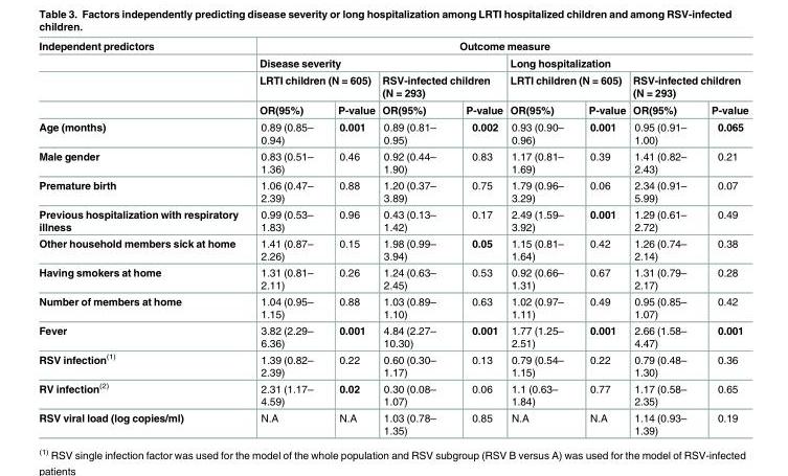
<table><thead><tr><td rowspan="4">Independent predictors</td><td colspan="8">Outcome measure</td></tr><tr><td colspan="4">Disease severity</td><td colspan="4">Long hospitalization</td></tr><tr><td colspan="2">LRTI children (N = 605)</td><td colspan="2">RSV-infected children (N = 293)</td><td colspan="2">LRTI children (N = 605)</td><td colspan="2">RSV-infected children (N = 293)</td></tr><tr><td>OR(95%)</td><td>P-value</td><td>OR(95%)</td><td>P-value</td><td>OR(95%)</td><td>P-value</td><td>OR(95%)</td><td>P-value</td></tr></thead><tbody><tr><td>Age (months)</td><td>0.89 (0.85– 0.94)</td><td>0.001</td><td>0.89 (0.81– 0.95)</td><td>0.002</td><td>0.93 (0.90– 0.96)</td><td>0.001</td><td>0.95 (0.91– 1.00)</td><td>0.065</td></tr><tr><td>Male gender</td><td>0.83 (0.51– 1.36)</td><td>0.46</td><td>0.92 (0.44– 1.90)</td><td>0.83</td><td>1.17 (0.81– 1.69)</td><td>0.39</td><td>1.41 (0.82– 2.43)</td><td>0.21</td></tr><tr><td>Premature birth</td><td>1.06 (0.47– 2.39)</td><td>0.88</td><td>1.20 (0.37– 3.89)</td><td>0.75</td><td>1.79 (0.96– 3.29)</td><td>0.06</td><td>2.34 (0.91– 5.99)</td><td>0.07</td></tr><tr><td>Previous hospitalization with respiratory illness</td><td>0.99 (0.53– 1.83)</td><td>0.96</td><td>0.43 (0.13– 1.42)</td><td>0.17</td><td>2.49 (1.59– 3.92)</td><td>0.001</td><td>1.29 (0.61– 2.72)</td><td>0.49</td></tr><tr><td>Other household members sick at home</td><td>1.41 (0.87– 2.26)</td><td>0.15</td><td>1.98 (0.99– 3.94)</td><td>0.05</td><td>1.15 (0.81– 1.64)</td><td>0.42</td><td>1.26 (0.74– 2.14)</td><td>0.38</td></tr><tr><td>Having smokers at home</td><td>1.31 (0.81– 2.11)</td><td>0.26</td><td>1.24 (0.63– 2.45)</td><td>0.53</td><td>0.92 (0.66– 1.31)</td><td>0.67</td><td>1.31 (0.79– 2.17)</td><td>0.28</td></tr><tr><td>Number of members at home</td><td>1.04 (0.95– 1.15)</td><td>0.88</td><td>1.03 (0.89– 1.10)</td><td>0.63</td><td>1.02 (0.97– 1.11)</td><td>0.49</td><td>0.95 (0.85– 1.07)</td><td>0.42</td></tr><tr><td>Fever</td><td>3.82 (2.29– 6.36)</td><td>0.001</td><td>4.84 (2.27– 10.30)</td><td>0.001</td><td>1.77 (1.25– 2.51)</td><td>0.001</td><td>2.66 (1.58– 4.47)</td><td>0.001</td></tr><tr><td>RSV infection<sup>(1)</sup></td><td>1.39 (0.82– 2.39)</td><td>0.22</td><td>0.60 (0.30– 1.17)</td><td>0.13</td><td>0.79 (0.54– 1.15)</td><td>0.22</td><td>0.79 (0.48– 1.30)</td><td>0.36</td></tr><tr><td>RV infection<sup>(2)</sup></td><td>2.31 (1.17– 4.59)</td><td>0.02</td><td>0.30 (0.08– 1.07)</td><td>0.06</td><td>1.1 (0.63– 1.84)</td><td>0.77</td><td>1.17 (0.58– 2.35)</td><td>0.65</td></tr><tr><td>RSV viral load (log copies/ml)</td><td>N.A</td><td>N.A</td><td>1.03 (0.78– 1.35)</td><td>0.85</td><td>N.A</td><td>N.A</td><td>1.14 (0.93– 1.39)</td><td>0.19</td></tr></tbody></table>